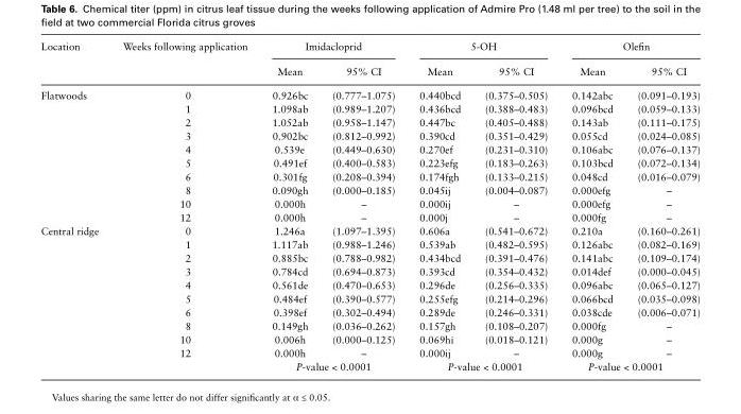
<table><thead><tr><td rowspan="2">Location</td><td rowspan="2">Weeks following application</td><td colspan="2">Imidacloprid</td><td colspan="2">5-OH</td><td colspan="2">Olefin</td></tr><tr><td>Mean</td><td>95% CI</td><td>Mean</td><td>95% CI</td><td>Mean</td><td>95% CI</td></tr></thead><tbody><tr><td rowspan="10">Flatwoods</td><td>0</td><td>0.926bc</td><td>(0.777–1.075)</td><td>0.440bcd</td><td>(0.375–0.505)</td><td>0.142abc</td><td>(0.091–0.193)</td></tr><tr><td>1</td><td>1.098ab</td><td>(0.989–1.207)</td><td>0.436bcd</td><td>(0.388–0.483)</td><td>0.096bcd</td><td>(0.059–0.133)</td></tr><tr><td>2</td><td>1.052ab</td><td>(0.958–1.147)</td><td>0.447bc</td><td>(0.405–0.488)</td><td>0.143ab</td><td>(0.111–0.175)</td></tr><tr><td>3</td><td>0.902bc</td><td>(0.812–0.992)</td><td>0.390cd</td><td>(0.351–0.429)</td><td>0.055cd</td><td>(0.024–0.085)</td></tr><tr><td>4</td><td>0.539e</td><td>(0.449–0.630)</td><td>0.270ef</td><td>(0.231–0.310)</td><td>0.106abc</td><td>(0.076–0.137)</td></tr><tr><td>5</td><td>0.491ef</td><td>(0.400–0.583)</td><td>0.223efg</td><td>(0.183–0.263)</td><td>0.103bcd</td><td>(0.072–0.134)</td></tr><tr><td>6</td><td>0.301fg</td><td>(0.208–0.394)</td><td>0.174fgh</td><td>(0.133–0.215)</td><td>0.048cd</td><td>(0.016–0.079)</td></tr><tr><td>8</td><td>0.090gh</td><td>(0.000–0.185)</td><td>0.045ij</td><td>(0.004–0.087)</td><td>0.000efg</td><td>–</td></tr><tr><td>10</td><td>0.000h</td><td>–</td><td>0.000ij</td><td>–</td><td>0.000efg</td><td>–</td></tr><tr><td>12</td><td>0.000h</td><td>–</td><td>0.000j</td><td>–</td><td>0.000fg</td><td>–</td></tr><tr><td rowspan="11">Central ridge</td><td>0</td><td>1.246a</td><td>(1.097–1.395)</td><td>0.606a</td><td>(0.541–0.672)</td><td>0.210a</td><td>(0.160–0.261)</td></tr><tr><td>1</td><td>1.117ab</td><td>(0.988–1.246)</td><td>0.539ab</td><td>(0.482–0.595)</td><td>0.126abc</td><td>(0.082–0.169)</td></tr><tr><td>2</td><td>0.885bc</td><td>(0.788–0.982)</td><td>0.434bcd</td><td>(0.391–0.476)</td><td>0.141abc</td><td>(0.109–0.174)</td></tr><tr><td>3</td><td>0.784cd</td><td>(0.694–0.873)</td><td>0.393cd</td><td>(0.354–0.432)</td><td>0.014def</td><td>(0.000–0.045)</td></tr><tr><td>4</td><td>0.561de</td><td>(0.470–0.653)</td><td>0.296de</td><td>(0.256–0.335)</td><td>0.096abc</td><td>(0.065–0.127)</td></tr><tr><td>5</td><td>0.484ef</td><td>(0.390–0.577)</td><td>0.255efg</td><td>(0.214–0.296)</td><td>0.066bcd</td><td>(0.035–0.098)</td></tr><tr><td>6</td><td>0.398ef</td><td>(0.302–0.494)</td><td>0.289de</td><td>(0.246–0.331)</td><td>0.038cde</td><td>(0.006–0.071)</td></tr><tr><td>8</td><td>0.149gh</td><td>(0.036–0.262)</td><td>0.157gh</td><td>(0.108–0.207)</td><td>0.000fg</td><td>–</td></tr><tr><td>10</td><td>0.006h</td><td>(0.000–0.125)</td><td>0.069hi</td><td>(0.018–0.121)</td><td>0.000g</td><td>–</td></tr><tr><td>12</td><td>0.000h</td><td>–</td><td>0.000ij</td><td>–</td><td>0.000g</td><td>–</td></tr><tr><td></td><td colspan="2">P-value &lt; 0.0001</td><td colspan="2">P-value &lt; 0.0001</td><td colspan="2">P-value &lt; 0.0001</td></tr></tbody></table>